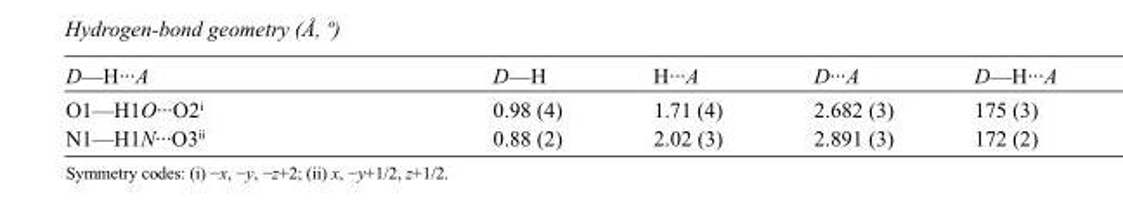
<table><tbody><tr><td>D—H···A</td><td>D—H</td><td>H···A</td><td>D···A</td><td>D—H···A</td></tr><tr><td>O1—H1O···O2<sup>i</sup></td><td>0.98 (4)</td><td>1.71 (4)</td><td>2.682 (3)</td><td>175 (3)</td></tr><tr><td>N1—H1N···O3<sup>ii</sup></td><td>0.88 (2)</td><td>2.02 (3)</td><td>2.891 (3)</td><td>172 (2)</td></tr></tbody></table>